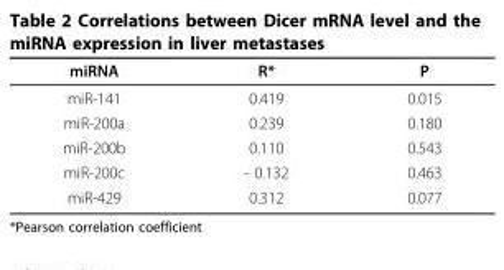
<table><thead><tr><td>miRNA</td><td>R*</td><td>P</td></tr></thead><tbody><tr><td>miR-141</td><td>0.419</td><td>0.015</td></tr><tr><td>miR-200a</td><td>0.239</td><td>0.180</td></tr><tr><td>miR-200b</td><td>0.110</td><td>0.543</td></tr><tr><td>miR-200c</td><td>- 0.132</td><td>0.463</td></tr><tr><td>miR-429</td><td>0.312</td><td>0.077</td></tr></tbody></table>